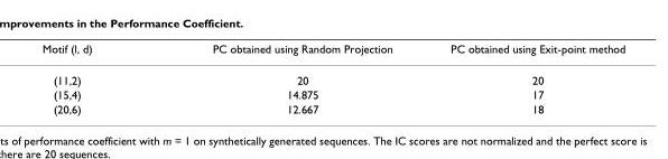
<table><thead><tr><td>Motif (l, d)</td><td>PC obtained using Random Projection</td><td>PC obtained using Exit-point method</td></tr></thead><tbody><tr><td>(11,2)</td><td>20</td><td>20</td></tr><tr><td>(15,4)</td><td>14.875</td><td>17</td></tr><tr><td>(20,6)</td><td>12.667</td><td>18</td></tr></tbody></table>